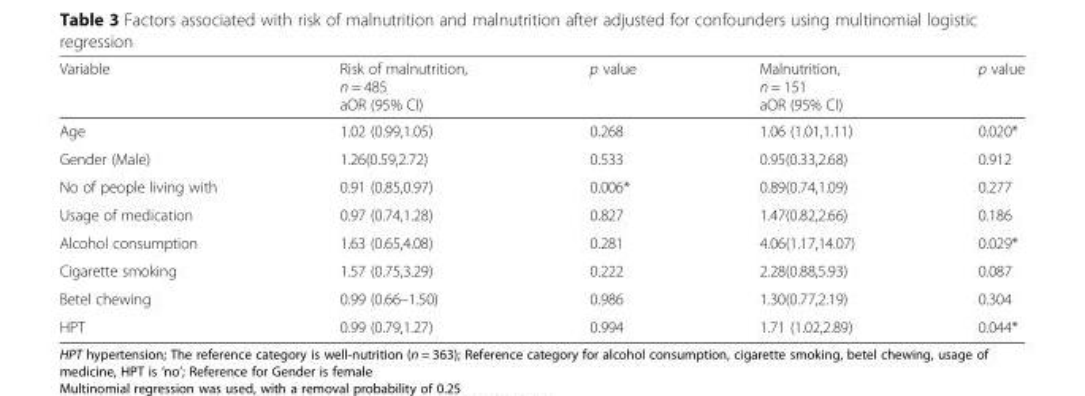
<table><thead><tr><td>Variable</td><td>Risk of malnutrition, n = 485 aOR (95% CI)</td><td>p value</td><td>Malnutrition, n = 151 aOR (95% CI)</td><td>p value</td></tr></thead><tbody><tr><td>Age</td><td>1.02 (0.99,1.05)</td><td>0.268</td><td>1.06 (1.01,1.11)</td><td>0.020*</td></tr><tr><td>Gender (Male)</td><td>1.26(0.59,2.72)</td><td>0.533</td><td>0.95(0.33,2.68)</td><td>0.912</td></tr><tr><td>No of people living with</td><td>0.91 (0.85,0.97)</td><td>0.006*</td><td>0.89(0.74,1.09)</td><td>0.277</td></tr><tr><td>Usage of medication</td><td>0.97 (0.74,1.28)</td><td>0.827</td><td>1.47(0.82,2.66)</td><td>0.186</td></tr><tr><td>Alcohol consumption</td><td>1.63 (0.65,4.08)</td><td>0.281</td><td>4.06(1.17,14.07)</td><td>0.029*</td></tr><tr><td>Cigarette smoking</td><td>1.57 (0.75,3.29)</td><td>0.222</td><td>2.28(0.88,5.93)</td><td>0.087</td></tr><tr><td>Betel chewing</td><td>0.99 (0.66–1.50)</td><td>0.986</td><td>1.30(0.77,2.19)</td><td>0.304</td></tr><tr><td>HPT</td><td>0.99 (0.79,1.27)</td><td>0.994</td><td>1.71 (1.02,2.89)</td><td>0.044*</td></tr></tbody></table>